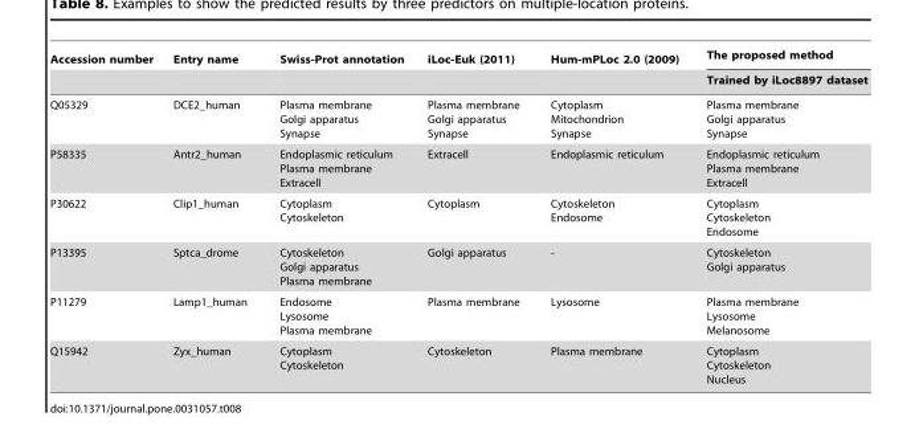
<table><thead><tr><td rowspan="2">Accession number</td><td rowspan="2">Entry name</td><td rowspan="2">Swiss-Prot annotation</td><td rowspan="2">iLoc-Euk (2011)</td><td rowspan="2">Hum-mPLoc 2.0 (2009)</td><td rowspan="2">The proposed method Trained by iLoc8897 dataset</td></tr><tr></tr></thead><tbody><tr><td>Q05329</td><td>DCE2_human</td><td>Plasma membrane Golgi apparatus Synapse</td><td>Plasma membrane Golgi apparatus Synapse</td><td>Cytoplasm Mitochondrion Synapse</td><td>Plasma membrane Golgi apparatus Synapse</td></tr><tr><td>P58335</td><td>Antr2_human</td><td>Endoplasmic reticulum Plasma membrane Extracell</td><td>Extracell</td><td>Endoplasmic reticulum</td><td>Endoplasmic reticulum Plasma membrane Extracell</td></tr><tr><td>P30622</td><td>Clip1_human</td><td>Cytoplasm Cytoskeleton</td><td>Cytoplasm</td><td>Cytoskeleton Endosome</td><td>Cytoplasm Cytoskeleton Endosome</td></tr><tr><td>P13395</td><td>Sptca_drome</td><td>Cytoskeleton Golgi apparatus Plasma membrane</td><td>Golgi apparatus</td><td>-</td><td>Cytoskeleton Golgi apparatus</td></tr><tr><td>P11279</td><td>Lamp1_human</td><td>Endosome Lysosome Plasma membrane</td><td>Plasma membrane</td><td>Lysosome</td><td>Plasma membrane Lysosome Melanosome</td></tr><tr><td>Q15942</td><td>Zyx_human</td><td>Cytoplasm Cytoskeleton</td><td>Cytoskeleton</td><td>Plasma membrane</td><td>Cytoplasm Cytoskeleton Nucleus</td></tr></tbody></table>